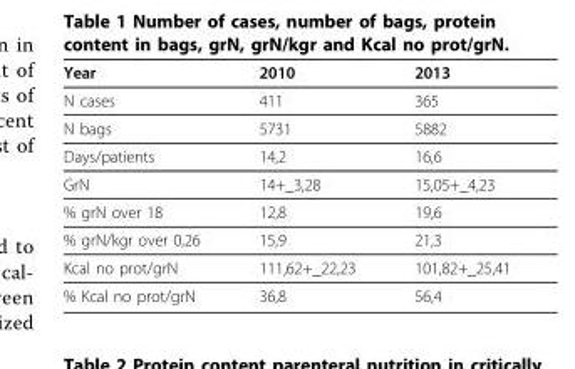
<table><thead><tr><td>Year</td><td>2010</td><td>2013</td></tr></thead><tbody><tr><td>N cases</td><td>411</td><td>365</td></tr><tr><td>N bags</td><td>5731</td><td>5882</td></tr><tr><td>Days/patients</td><td>14,2</td><td>16,6</td></tr><tr><td>GrN</td><td>14+_3,28</td><td>15,05+_4,23</td></tr><tr><td>% grN over 18</td><td>12,8</td><td>19,6</td></tr><tr><td>% grN/kgr over 0,26</td><td>15,9</td><td>21,3</td></tr><tr><td>Kcal no prot/grN</td><td>111,62+_22,23</td><td>101,82+_25,41</td></tr><tr><td>% Kcal no prot/grN</td><td>36,8</td><td>56,4</td></tr></tbody></table>